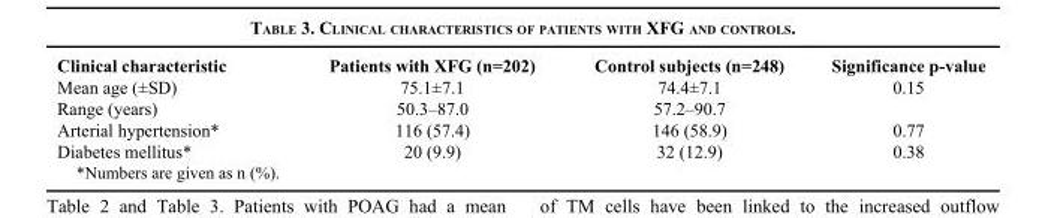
<table><thead><tr><td>Clinical characteristic</td><td>Patients with XFG (n=202)</td><td>Control subjects (n=248)</td><td>Significance p-value</td></tr></thead><tbody><tr><td>Mean age (±SD)</td><td>75.1±7.1</td><td>74.4±7.1</td><td>0.15</td></tr><tr><td>Range (years)</td><td>50.3–87.0</td><td>57.2–90.7</td><td></td></tr><tr><td>Arterial hypertension*</td><td>116 (57.4)</td><td>146 (58.9)</td><td>0.77</td></tr><tr><td>Diabetes mellitus*</td><td>20 (9.9)</td><td>32 (12.9)</td><td>0.38</td></tr></tbody></table>